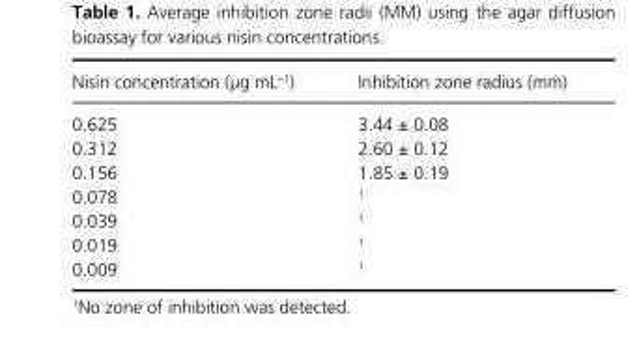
<table><thead><tr><td>Nisin concentration (μg mL<sup>−1</sup>)</td><td>Inhibition zone radius (mm)</td></tr></thead><tbody><tr><td>0.625</td><td>3.44 ± 0.08</td></tr><tr><td>0.312</td><td>2.60 ± 0.12</td></tr><tr><td>0.156</td><td>1.85 ± 0.19</td></tr><tr><td>0.078</td><td>1</td></tr><tr><td>0.039</td><td>1</td></tr><tr><td>0.019</td><td>1</td></tr><tr><td>0.009</td><td>1</td></tr></tbody></table>